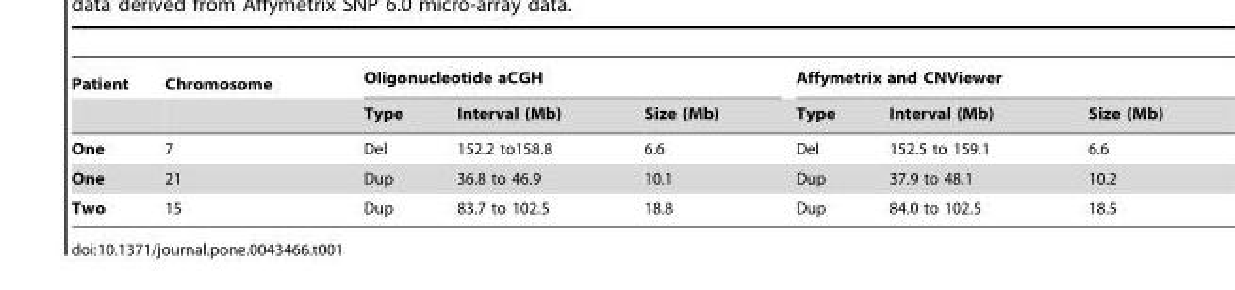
<table><thead><tr><td rowspan="2">Patient</td><td rowspan="2">Chromosome</td><td colspan="3">Oligonucleotide aCGH</td><td colspan="3">Affymetrix and CNViewer</td></tr><tr><td>Type</td><td>Interval (Mb)</td><td>Size (Mb)</td><td>Type</td><td>Interval (Mb)</td><td>Size (Mb)</td></tr></thead><tbody><tr><td>One</td><td>7</td><td>Del</td><td>152.2 to158.8</td><td>6.6</td><td>Del</td><td>152.5 to 159.1</td><td>6.6</td></tr><tr><td>One</td><td>21</td><td>Dup</td><td>36.8 to 46.9</td><td>10.1</td><td>Dup</td><td>37.9 to 48.1</td><td>10.2</td></tr><tr><td>Two</td><td>15</td><td>Dup</td><td>83.7 to 102.5</td><td>18.8</td><td>Dup</td><td>84.0 to 102.5</td><td>18.5</td></tr></tbody></table>